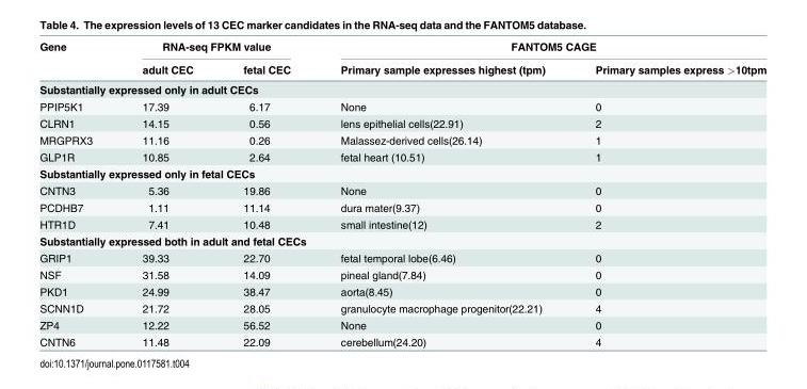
<table><thead><tr><td rowspan="2">Gene</td><td colspan="2">RNA-seq FPKM value</td><td colspan="2">FANTOM5 CAGE</td></tr><tr><td>adult CEC</td><td>fetal CEC</td><td>Primary sample expresses highest (tpm)</td><td>Primary samples express &gt;10tpm</td></tr></thead><tbody><tr><td colspan="5">Substantially expressed only in adult CECs</td></tr><tr><td>PPIP5K1</td><td>17.39</td><td>6.17</td><td>None</td><td>0</td></tr><tr><td>CLRN1</td><td>14.15</td><td>0.56</td><td>lens epithelial cells(22.91)</td><td>2</td></tr><tr><td>MRGPRX3</td><td>11.16</td><td>0.26</td><td>Malassez-derived cells(26.14)</td><td>1</td></tr><tr><td>GLP1R</td><td>10.85</td><td>2.64</td><td>fetal heart (10.51)</td><td>1</td></tr><tr><td colspan="5">Substantially expressed only in fetal CECs</td></tr><tr><td>CNTN3</td><td>5.36</td><td>19.86</td><td>None</td><td>0</td></tr><tr><td>PCDHB7</td><td>1.11</td><td>11.14</td><td>dura mater(9.37)</td><td>0</td></tr><tr><td>HTR1D</td><td>7.41</td><td>10.48</td><td>small intestine(12)</td><td>2</td></tr><tr><td colspan="5">Substantially expressed both in adult and fetal CECs</td></tr><tr><td>GRIP1</td><td>39.33</td><td>22.70</td><td>fetal temporal lobe(6.46)</td><td>0</td></tr><tr><td>NSF</td><td>31.58</td><td>14.09</td><td>pineal gland(7.84)</td><td>0</td></tr><tr><td>PKD1</td><td>24.99</td><td>38.47</td><td>aorta(8.45)</td><td>0</td></tr><tr><td>SCNN1D</td><td>21.72</td><td>28.05</td><td>granulocyte macrophage progenitor(22.21)</td><td>4</td></tr><tr><td>ZP4</td><td>12.22</td><td>56.52</td><td>None</td><td>0</td></tr><tr><td>CNTN6</td><td>11.48</td><td>22.09</td><td>cerebellum(24.20)</td><td>4</td></tr></tbody></table>